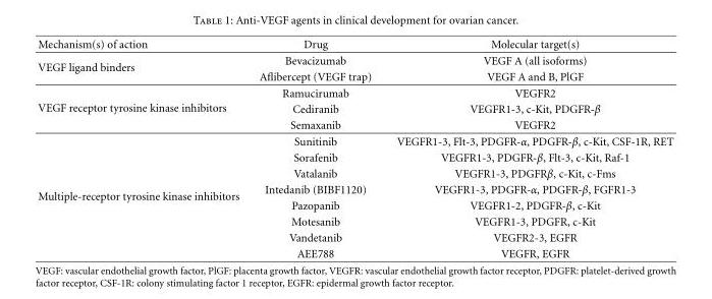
<table><thead><tr><td>Mechanism(s) of action</td><td>Drug</td><td>Molecular target(s)</td></tr></thead><tbody><tr><td rowspan="2">VEGF ligand binders</td><td>Bevacizumab</td><td>VEGF A (all isoforms)</td></tr><tr><td>Aflibercept (VEGF trap)</td><td>VEGF A and B, PlGF</td></tr><tr><td rowspan="3">VEGF receptor tyrosine kinase inhibitors</td><td>Ramucirumab</td><td>VEGFR2</td></tr><tr><td>Cediranib</td><td>VEGFR1-3, c-Kit, PDGFR-β</td></tr><tr><td>Semaxanib</td><td>VEGFR2</td></tr><tr><td rowspan="8">Multiple-receptor tyrosine kinase inhibitors</td><td>Sunitinib</td><td>VEGFR1-3, Flt-3, PDGFR-α, PDGFR-β, c-Kit, CSF-1R, RET</td></tr><tr><td>Sorafenib</td><td>VEGFR1-3, PDGFR-β, Flt-3, c-Kit, Raf-1</td></tr><tr><td>Vatalanib</td><td>VEGFR1-3, PDGFRβ, c-Kit, c-Fms</td></tr><tr><td>Intedanib (BIBF1120)</td><td>VEGFR1-3, PDGFR-α, PDGFR-β, FGFR1-3</td></tr><tr><td>Pazopanib</td><td>VEGFR1-2, PDGFR-β, c-Kit</td></tr><tr><td>Motesanib</td><td>VEGFR1-3, PDGFR, c-Kit</td></tr><tr><td>Vandetanib</td><td>VEGFR2-3, EGFR</td></tr><tr><td>AEE788</td><td>VEGFR, EGFR</td></tr></tbody></table>